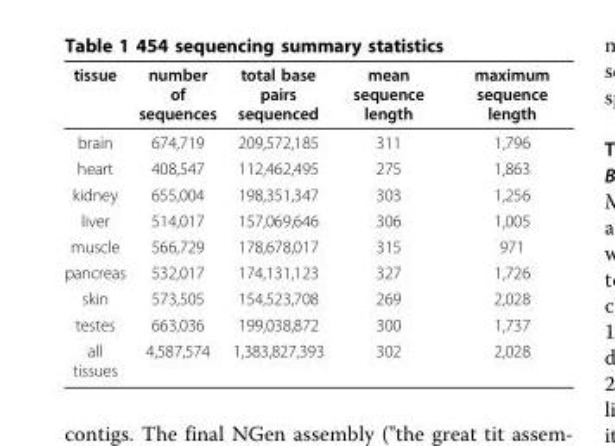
<table><thead><tr><td>tissue</td><td>number of sequences</td><td>total base pairs sequenced</td><td>mean sequence length</td><td>maximum sequence length</td></tr></thead><tbody><tr><td>brain</td><td>674,719</td><td>209,572,185</td><td>311</td><td>1,796</td></tr><tr><td>heart</td><td>408,547</td><td>112,462,495</td><td>275</td><td>1,863</td></tr><tr><td>kidney</td><td>655,004</td><td>198,351,347</td><td>303</td><td>1,256</td></tr><tr><td>liver</td><td>514,017</td><td>157,069,646</td><td>306</td><td>1,005</td></tr><tr><td>muscle</td><td>566,729</td><td>178,678,017</td><td>315</td><td>971</td></tr><tr><td>pancreas</td><td>532,017</td><td>174,131,123</td><td>327</td><td>1,726</td></tr><tr><td>skin</td><td>573,505</td><td>154,523,708</td><td>269</td><td>2,028</td></tr><tr><td>testes</td><td>663,036</td><td>199,038,872</td><td>300</td><td>1,737</td></tr><tr><td>all tissues</td><td>4,587,574</td><td>1,383,827,393</td><td>302</td><td>2,028</td></tr></tbody></table>